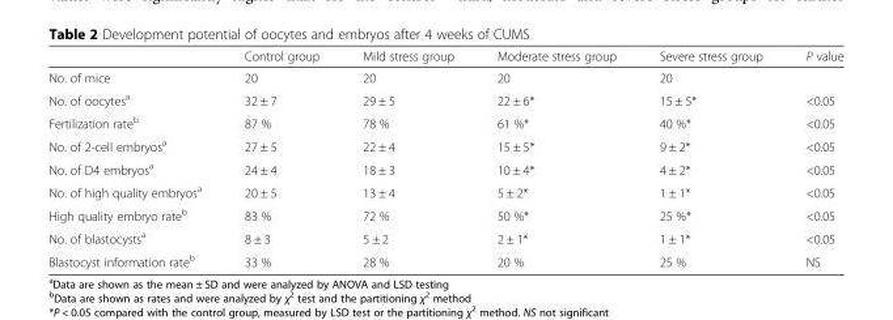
<table><thead><tr><td></td><td>Control group</td><td>Mild stress group</td><td>Moderate stress group</td><td>Severe stress group</td><td>P value</td></tr></thead><tbody><tr><td>No. of mice</td><td>20</td><td>20</td><td>20</td><td>20</td><td></td></tr><tr><td>No. of oocytes<sup>a</sup></td><td>32 ± 7</td><td>29 ± 5</td><td>22 ± 6*</td><td>15 ± 5*</td><td>&lt;0.05</td></tr><tr><td>Fertilization rate<sup>b</sup></td><td>87 %</td><td>78 %</td><td>61 %*</td><td>40 %*</td><td>&lt;0.05</td></tr><tr><td>No. of 2-cell embryos<sup>a</sup></td><td>27 ± 5</td><td>22 ± 4</td><td>15 ± 5*</td><td>9 ± 2*</td><td>&lt;0.05</td></tr><tr><td>No. of D4 embryos<sup>a</sup></td><td>24 ± 4</td><td>18 ± 3</td><td>10 ± 4*</td><td>4 ± 2*</td><td>&lt;0.05</td></tr><tr><td>No. of high quality embryos<sup>a</sup></td><td>20 ± 5</td><td>13 ± 4</td><td>5 ± 2*</td><td>1 ± 1*</td><td>&lt;0.05</td></tr><tr><td>High quality embryo rate<sup>b</sup></td><td>83 %</td><td>72 %</td><td>50 %*</td><td>25 %*</td><td>&lt;0.05</td></tr><tr><td>No. of blastocysts<sup>a</sup></td><td>8 ± 3</td><td>5 ± 2</td><td>2 ± 1*</td><td>1 ± 1*</td><td>&lt;0.05</td></tr><tr><td>Blastocyst information rate<sup>b</sup></td><td>33 %</td><td>28 %</td><td>20 %</td><td>25 %</td><td>NS</td></tr></tbody></table>